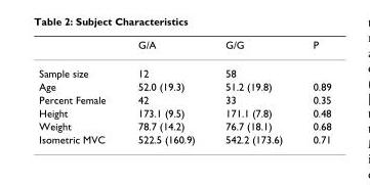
<table><thead><tr><td></td><td>G/A</td><td>G/G</td><td>P</td></tr></thead><tbody><tr><td>Sample size</td><td>12</td><td>58</td><td></td></tr><tr><td>Age</td><td>52.0 (19.3)</td><td>51.2 (19.8)</td><td>0.89</td></tr><tr><td>Percent Female</td><td>42</td><td>33</td><td>0.35</td></tr><tr><td>Height</td><td>173.1 (9.5)</td><td>171.1 (7.8)</td><td>0.48</td></tr><tr><td>Weight</td><td>78.7 (14.2)</td><td>76.7 (18.1)</td><td>0.68</td></tr><tr><td>Isometric MVC</td><td>522.5 (160.9)</td><td>542.2 (173.6)</td><td>0.71</td></tr></tbody></table>